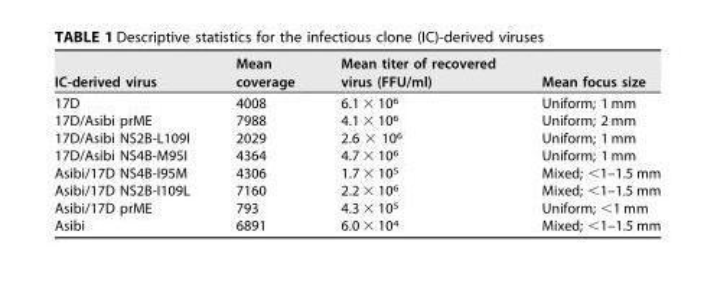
<table><thead><tr><td>IC-derived virus</td><td>Mean coverage</td><td>Mean titer of recovered virus (FFU/ml)</td><td>Mean focus size</td></tr></thead><tbody><tr><td>17D</td><td>4008</td><td>6.1 × 10<sup>6</sup></td><td>Uniform; 1 mm</td></tr><tr><td>17D/Asibi prME</td><td>7988</td><td>4.1 × 10<sup>6</sup></td><td>Uniform; 2 mm</td></tr><tr><td>17D/Asibi NS2B-L109I</td><td>2029</td><td>2.6 × 10<sup>6</sup></td><td>Uniform; 1 mm</td></tr><tr><td>17D/Asibi NS4B-M95I</td><td>4364</td><td>4.7 × 10<sup>6</sup></td><td>Uniform; 1 mm</td></tr><tr><td>Asibi/17D NS4B-I95M</td><td>4306</td><td>1.7 × 10<sup>5</sup></td><td>Mixed; &lt;1–1.5 mm</td></tr><tr><td>Asibi/17D NS2B-I109L</td><td>7160</td><td>2.2 × 10<sup>6</sup></td><td>Mixed; &lt;1–1.5 mm</td></tr><tr><td>Asibi/17D prME</td><td>793</td><td>4.3 × 10<sup>5</sup></td><td>Uniform; &lt;1 mm</td></tr><tr><td>Asibi</td><td>6891</td><td>6.0 × 10<sup>4</sup></td><td>Mixed; &lt;1–1.5 mm</td></tr></tbody></table>